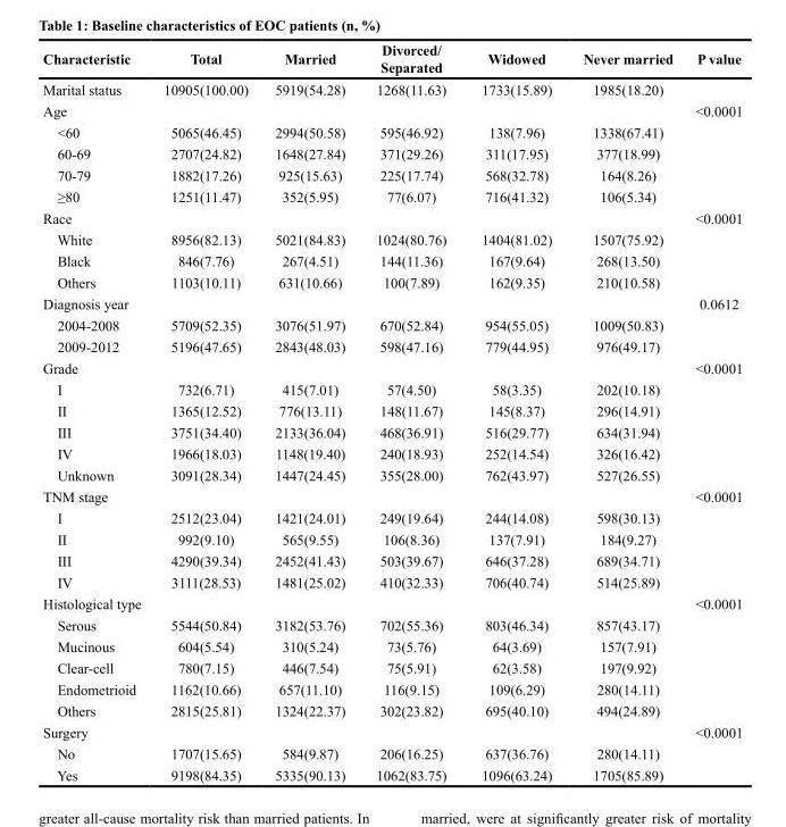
<table><thead><tr><td>Characteristic</td><td>Total</td><td>Married</td><td>Divorced/ Separated</td><td>Widowed</td><td>Never married</td><td>P value</td></tr></thead><tbody><tr><td>Marital status</td><td>10905(100.00)</td><td>5919(54.28)</td><td>1268(11.63)</td><td>1733(15.89)</td><td>1985(18.20)</td><td></td></tr><tr><td>Age</td><td></td><td></td><td></td><td></td><td></td><td>&lt;0.0001</td></tr><tr><td>&lt;60</td><td>5065(46.45)</td><td>2994(50.58)</td><td>595(46.92)</td><td>138(7.96)</td><td>1338(67.41)</td><td></td></tr><tr><td>60-69</td><td>2707(24.82)</td><td>1648(27.84)</td><td>371(29.26)</td><td>311(17.95)</td><td>377(18.99)</td><td></td></tr><tr><td>70-79</td><td>1882(17.26)</td><td>925(15.63)</td><td>225(17.74)</td><td>568(32.78)</td><td>164(8.26)</td><td></td></tr><tr><td>≥80</td><td>1251(11.47)</td><td>352(5.95)</td><td>77(6.07)</td><td>716(41.32)</td><td>106(5.34)</td><td></td></tr><tr><td>Race</td><td></td><td></td><td></td><td></td><td></td><td>&lt;0.0001</td></tr><tr><td>White</td><td>8956(82.13)</td><td>5021(84.83)</td><td>1024(80.76)</td><td>1404(81.02)</td><td>1507(75.92)</td><td></td></tr><tr><td>Black</td><td>846(7.76)</td><td>267(4.51)</td><td>144(11.36)</td><td>167(9.64)</td><td>268(13.50)</td><td></td></tr><tr><td>Others</td><td>1103(10.11)</td><td>631(10.66)</td><td>100(7.89)</td><td>162(9.35)</td><td>210(10.58)</td><td></td></tr><tr><td>Diagnosis year</td><td></td><td></td><td></td><td></td><td></td><td>0.0612</td></tr><tr><td>2004-2008</td><td>5709(52.35)</td><td>3076(51.97)</td><td>670(52.84)</td><td>954(55.05)</td><td>1009(50.83)</td><td></td></tr><tr><td>2009-2012</td><td>5196(47.65)</td><td>2843(48.03)</td><td>598(47.16)</td><td>779(44.95)</td><td>976(49.17)</td><td></td></tr><tr><td>Grade</td><td></td><td></td><td></td><td></td><td></td><td>&lt;0.0001</td></tr><tr><td>I</td><td>732(6.71)</td><td>415(7.01)</td><td>57(4.50)</td><td>58(3.35)</td><td>202(10.18)</td><td></td></tr><tr><td>II</td><td>1365(12.52)</td><td>776(13.11)</td><td>148(11.67)</td><td>145(8.37)</td><td>296(14.91)</td><td></td></tr><tr><td>III</td><td>3751(34.40)</td><td>2133(36.04)</td><td>468(36.91)</td><td>516(29.77)</td><td>634(31.94)</td><td></td></tr><tr><td>IV</td><td>1966(18.03)</td><td>1148(19.40)</td><td>240(18.93)</td><td>252(14.54)</td><td>326(16.42)</td><td></td></tr><tr><td>Unknown</td><td>3091(28.34)</td><td>1447(24.45)</td><td>355(28.00)</td><td>762(43.97)</td><td>527(26.55)</td><td></td></tr><tr><td>TNM stage</td><td></td><td></td><td></td><td></td><td></td><td>&lt;0.0001</td></tr><tr><td>I</td><td>2512(23.04)</td><td>1421(24.01)</td><td>249(19.64)</td><td>244(14.08)</td><td>598(30.13)</td><td></td></tr><tr><td>II</td><td>992(9.10)</td><td>565(9.55)</td><td>106(8.36)</td><td>137(7.91)</td><td>184(9.27)</td><td></td></tr><tr><td>III</td><td>4290(39.34)</td><td>2452(41.43)</td><td>503(39.67)</td><td>646(37.28)</td><td>689(34.71)</td><td></td></tr><tr><td>IV</td><td>3111(28.53)</td><td>1481(25.02)</td><td>410(32.33)</td><td>706(40.74)</td><td>514(25.89)</td><td></td></tr><tr><td>Histological type</td><td></td><td></td><td></td><td></td><td></td><td>&lt;0.0001</td></tr><tr><td>Serous</td><td>5544(50.84)</td><td>3182(53.76)</td><td>702(55.36)</td><td>803(46.34)</td><td>857(43.17)</td><td></td></tr><tr><td>Mucinous</td><td>604(5.54)</td><td>310(5.24)</td><td>73(5.76)</td><td>64(3.69)</td><td>157(7.91)</td><td></td></tr><tr><td>Clear-cell</td><td>780(7.15)</td><td>446(7.54)</td><td>75(5.91)</td><td>62(3.58)</td><td>197(9.92)</td><td></td></tr><tr><td>Endometrioid</td><td>1162(10.66)</td><td>657(11.10)</td><td>116(9.15)</td><td>109(6.29)</td><td>280(14.11)</td><td></td></tr><tr><td>Others</td><td>2815(25.81)</td><td>1324(22.37)</td><td>302(23.82)</td><td>695(40.10)</td><td>494(24.89)</td><td></td></tr><tr><td>Surgery</td><td></td><td></td><td></td><td></td><td></td><td>&lt;0.0001</td></tr><tr><td>No</td><td>1707(15.65)</td><td>584(9.87)</td><td>206(16.25)</td><td>637(36.76)</td><td>280(14.11)</td><td></td></tr><tr><td>Yes</td><td>9198(84.35)</td><td>5335(90.13)</td><td>1062(83.75)</td><td>1096(63.24)</td><td>1705(85.89)</td><td></td></tr></tbody></table>